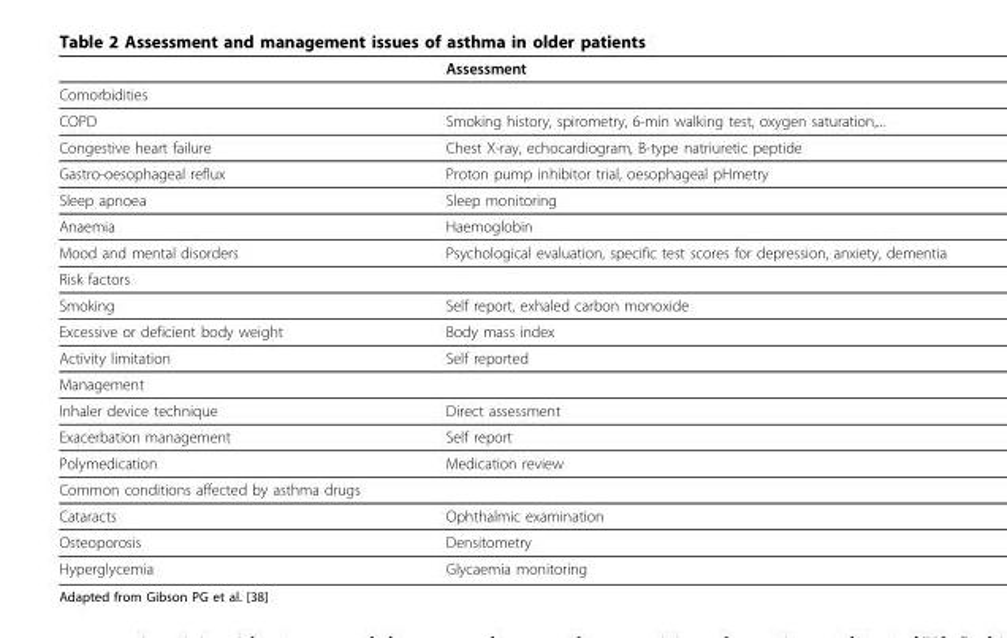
<table><thead><tr><td></td><td>Assessment</td></tr></thead><tbody><tr><td colspan="2">Comorbidities</td></tr><tr><td>COPD</td><td>Smoking history, spirometry, 6-min walking test, oxygen saturation,...</td></tr><tr><td>Congestive heart failure</td><td>Chest X-ray, echocardiogram, B-type natriuretic peptide</td></tr><tr><td>Gastro-oesophageal reflux</td><td>Proton pump inhibitor trial, oesophageal pHmetry</td></tr><tr><td>Sleep apnoea</td><td>Sleep monitoring</td></tr><tr><td>Anaemia</td><td>Haemoglobin</td></tr><tr><td>Mood and mental disorders</td><td>Psychological evaluation, specific test scores for depression, anxiety, dementia</td></tr><tr><td colspan="2">Risk factors</td></tr><tr><td>Smoking</td><td>Self report, exhaled carbon monoxide</td></tr><tr><td>Excessive or deficient body weight</td><td>Body mass index</td></tr><tr><td>Activity limitation</td><td>Self reported</td></tr><tr><td colspan="2">Management</td></tr><tr><td>Inhaler device technique</td><td>Direct assessment</td></tr><tr><td>Exacerbation management</td><td>Self report</td></tr><tr><td>Polymedication</td><td>Medication review</td></tr><tr><td colspan="2">Common conditions affected by asthma drugs</td></tr><tr><td>Cataracts</td><td>Ophthalmic examination</td></tr><tr><td>Osteoporosis</td><td>Densitometry</td></tr><tr><td>Hyperglycemia</td><td>Glycaemia monitoring</td></tr></tbody></table>